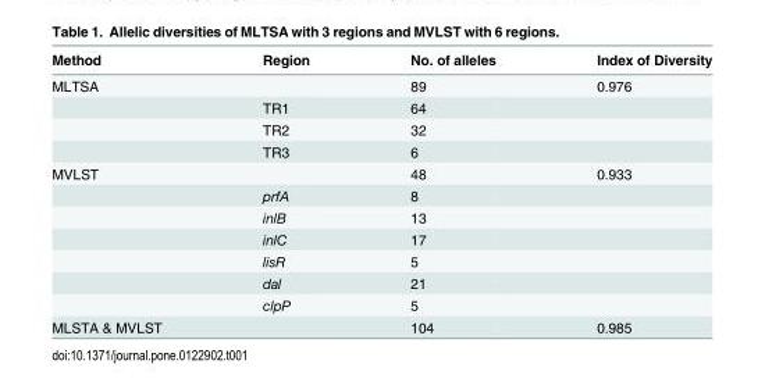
<table><thead><tr><td>Method</td><td>Region</td><td>No. of alleles</td><td>Index of Diversity</td></tr></thead><tbody><tr><td rowspan="4">MLTSA</td><td></td><td>89</td><td>0.976</td></tr><tr><td>TR1</td><td>64</td><td></td></tr><tr><td>TR2</td><td>32</td><td></td></tr><tr><td>TR3</td><td>6</td><td></td></tr><tr><td rowspan="7">MVLST</td><td></td><td>48</td><td>0.933</td></tr><tr><td>prfA</td><td>8</td><td></td></tr><tr><td>inlB</td><td>13</td><td></td></tr><tr><td>inlC</td><td>17</td><td></td></tr><tr><td>lisR</td><td>5</td><td></td></tr><tr><td>dal</td><td>21</td><td></td></tr><tr><td>clpP</td><td>5</td><td></td></tr><tr><td>MLSTA &amp; MVLST</td><td></td><td>104</td><td>0.985</td></tr></tbody></table>